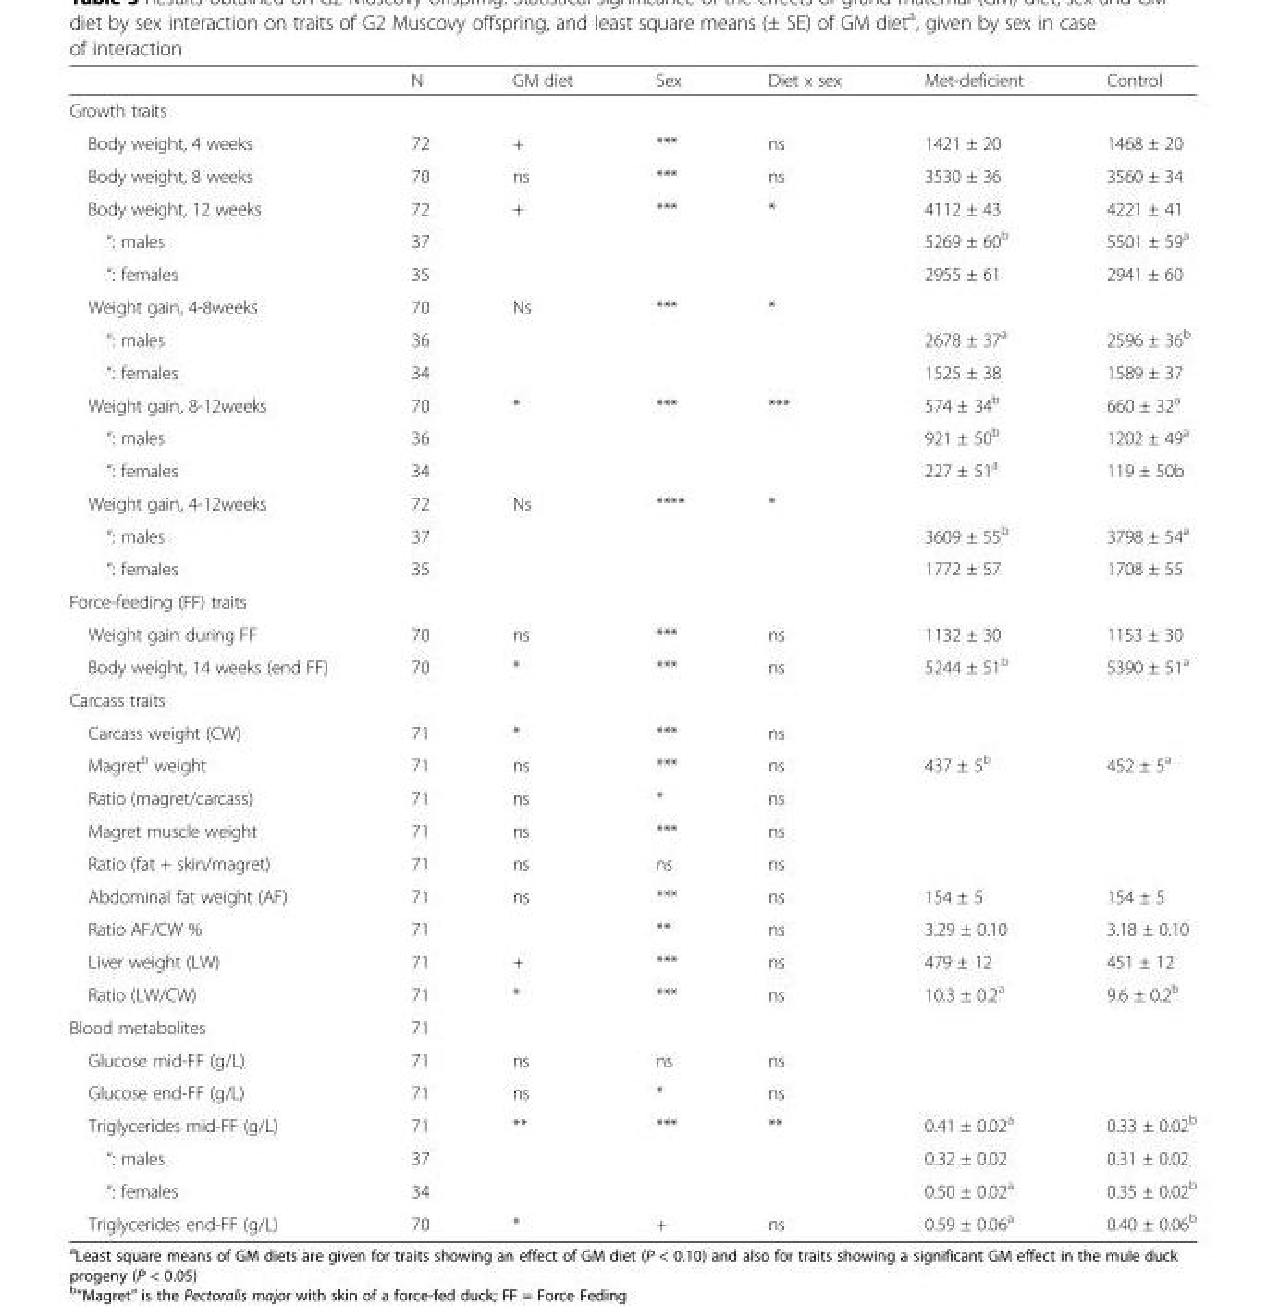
<table><thead><tr><td></td><td>N</td><td>GM diet</td><td>Sex</td><td>Diet x sex</td><td>Met-deficient</td><td>Control</td></tr></thead><tbody><tr><td colspan="7">Growth traits</td></tr><tr><td>Body weight, 4 weeks</td><td>72</td><td>+</td><td>***</td><td>ns</td><td>1421 ± 20</td><td>1468 ± 20</td></tr><tr><td>Body weight, 8 weeks</td><td>70</td><td>ns</td><td>***</td><td>ns</td><td>3530 ± 36</td><td>3560 ± 34</td></tr><tr><td>Body weight, 12 weeks</td><td>72</td><td>+</td><td>***</td><td>*</td><td>4112 ± 43</td><td>4221 ± 41</td></tr><tr><td>“: males</td><td>37</td><td></td><td></td><td></td><td>5269 ± 60<sup>b</sup></td><td>5501 ± 59<sup>a</sup></td></tr><tr><td>“: females</td><td>35</td><td></td><td></td><td></td><td>2955 ± 61</td><td>2941 ± 60</td></tr><tr><td>Weight gain, 4-8weeks</td><td>70</td><td>Ns</td><td>***</td><td>*</td><td></td><td></td></tr><tr><td>“: males</td><td>36</td><td></td><td></td><td></td><td>2678 ± 37<sup>a</sup></td><td>2596 ± 36<sup>b</sup></td></tr><tr><td>“: females</td><td>34</td><td></td><td></td><td></td><td>1525 ± 38</td><td>1589 ± 37</td></tr><tr><td>Weight gain, 8-12weeks</td><td>70</td><td>*</td><td>***</td><td>***</td><td>574 ± 34<sup>b</sup></td><td>660 ± 32<sup>a</sup></td></tr><tr><td>“: males</td><td>36</td><td></td><td></td><td></td><td>921 ± 50<sup>b</sup></td><td>1202 ± 49<sup>a</sup></td></tr><tr><td>“: females</td><td>34</td><td></td><td></td><td></td><td>227 ± 51<sup>a</sup></td><td>119 ± 50b</td></tr><tr><td>Weight gain, 4-12weeks</td><td>72</td><td>Ns</td><td>****</td><td>*</td><td></td><td></td></tr><tr><td>“: males</td><td>37</td><td></td><td></td><td></td><td>3609 ± 55<sup>b</sup></td><td>3798 ± 54<sup>a</sup></td></tr><tr><td>“: females</td><td>35</td><td></td><td></td><td></td><td>1772 ± 57</td><td>1708 ± 55</td></tr><tr><td colspan="7">Force-feeding (FF) traits</td></tr><tr><td>Weight gain during FF</td><td>70</td><td>ns</td><td>***</td><td>ns</td><td>1132 ± 30</td><td>1153 ± 30</td></tr><tr><td>Body weight, 14 weeks (end FF)</td><td>70</td><td>*</td><td>***</td><td>ns</td><td>5244 ± 51<sup>b</sup></td><td>5390 ± 51<sup>a</sup></td></tr><tr><td colspan="7">Carcass traits</td></tr><tr><td>Carcass weight (CW)</td><td>71</td><td>*</td><td>***</td><td>ns</td><td></td><td></td></tr><tr><td>Magret<sup>b</sup> weight</td><td>71</td><td>ns</td><td>***</td><td>ns</td><td>437 ± 5<sup>b</sup></td><td>452 ± 5<sup>a</sup></td></tr><tr><td>Ratio (magret/carcass)</td><td>71</td><td>ns</td><td>*</td><td>ns</td><td></td><td></td></tr><tr><td>Magret muscle weight</td><td>71</td><td>ns</td><td>***</td><td>ns</td><td></td><td></td></tr><tr><td>Ratio (fat + skin/magret)</td><td>71</td><td>ns</td><td>ns</td><td>ns</td><td></td><td></td></tr><tr><td>Abdominal fat weight (AF)</td><td>71</td><td>ns</td><td>***</td><td>ns</td><td>154 ± 5</td><td>154 ± 5</td></tr><tr><td>Ratio AF/CW %</td><td>71</td><td></td><td>**</td><td>ns</td><td>3.29 ± 0.10</td><td>3.18 ± 0.10</td></tr><tr><td>Liver weight (LW)</td><td>71</td><td>+</td><td>***</td><td>ns</td><td>479 ± 12</td><td>451 ± 12</td></tr><tr><td>Ratio (LW/CW)</td><td>71</td><td>*</td><td>***</td><td>ns</td><td>10.3 ± 0.2<sup>a</sup></td><td>9.6 ± 0.2<sup>b</sup></td></tr><tr><td>Blood metabolites</td><td>71</td><td></td><td></td><td></td><td></td><td></td></tr><tr><td>Glucose mid-FF (g/L)</td><td>71</td><td>ns</td><td>ns</td><td>ns</td><td></td><td></td></tr><tr><td>Glucose end-FF (g/L)</td><td>71</td><td>ns</td><td>*</td><td>ns</td><td></td><td></td></tr><tr><td>Triglycerides mid-FF (g/L)</td><td>71</td><td>**</td><td>***</td><td>**</td><td>0.41 ± 0.02<sup>a</sup></td><td>0.33 ± 0.02<sup>b</sup></td></tr><tr><td>“: males</td><td>37</td><td></td><td></td><td></td><td>0.32 ± 0.02</td><td>0.31 ± 0.02</td></tr><tr><td>“: females</td><td>34</td><td></td><td></td><td></td><td>0.50 ± 0.02<sup>a</sup></td><td>0.35 ± 0.02<sup>b</sup></td></tr><tr><td>Triglycerides end-FF (g/L)</td><td>70</td><td>*</td><td>+</td><td>ns</td><td>0.59 ± 0.06<sup>a</sup></td><td>0.40 ± 0.06<sup>b</sup></td></tr></tbody></table>